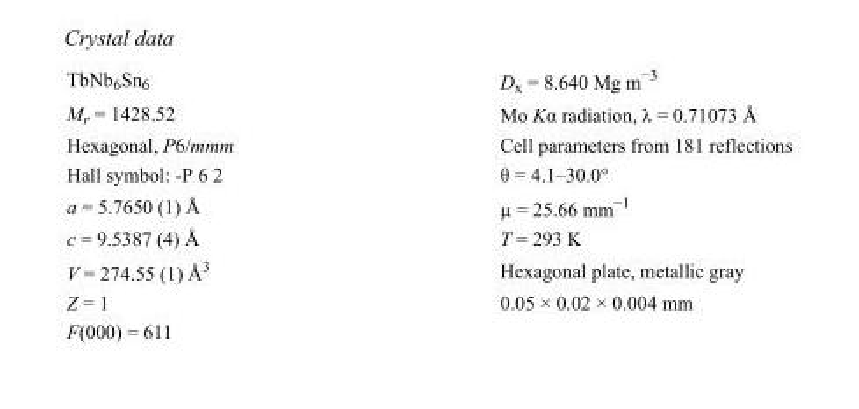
<table><tbody><tr><td>TbNb<sub>6</sub>Sn<sub>6</sub></td><td>D<sub>x</sub> = 8.640 Mg m<sup>−3</sup></td></tr><tr><td>M<sub>r</sub> = 1428.52</td><td>Mo Kα radiation, λ = 0.71073 Å</td></tr><tr><td>Hexagonal, P6/mmm</td><td>Cell parameters from 181 reflections</td></tr><tr><td>Hall symbol: -P 6 2</td><td>θ = 4.1–30.0°</td></tr><tr><td>a = 5.7650 (1) Å</td><td>µ = 25.66 mm<sup>−1</sup></td></tr><tr><td>c = 9.5387 (4) Å</td><td>T = 293 K</td></tr><tr><td>V = 274.55 (1) Å<sup>3</sup></td><td>Hexagonal plate, metallic gray</td></tr><tr><td>Z = 1</td><td>0.05 × 0.02 × 0.004 mm</td></tr><tr><td>F(000) = 611</td><td></td></tr></tbody></table>